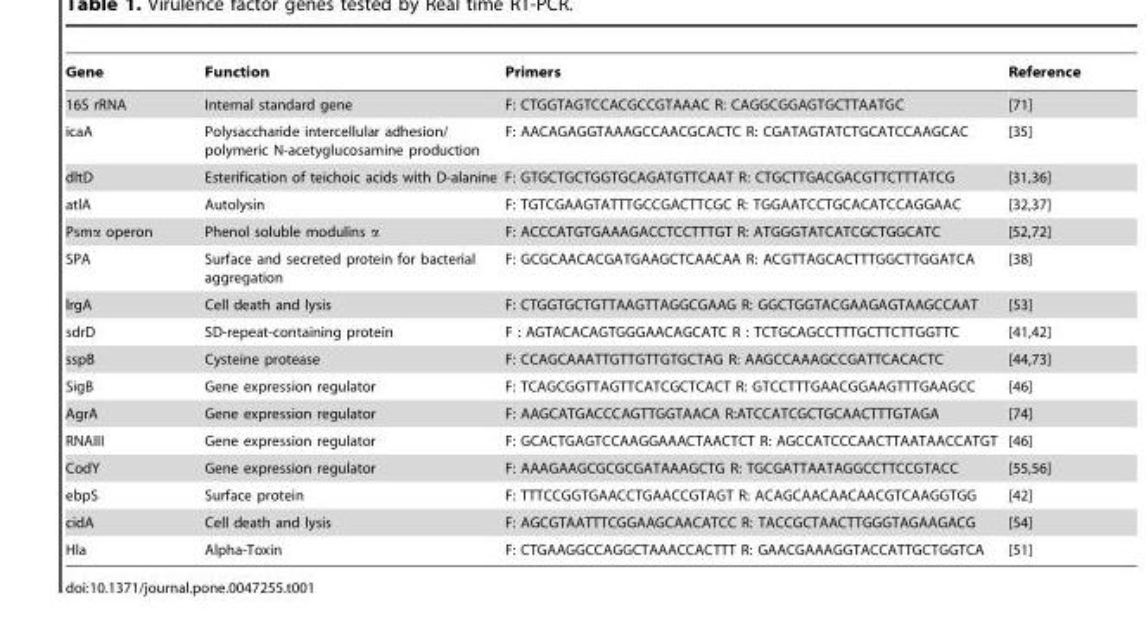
<table><thead><tr><td>Gene</td><td>Function</td><td>Primers</td><td>Reference</td></tr></thead><tbody><tr><td>16S rRNA</td><td>Internal standard gene</td><td>F: CTGGTAGTCCACGCCGTAAAC R: CAGGCGGAGTGCTTAATGC</td><td>[71]</td></tr><tr><td>icaA</td><td>Polysaccharide intercellular adhesion/ polymeric N-acetyglucosamine production</td><td>F: AACAGAGGTAAAGCCAACGCACTC R: CGATAGTATCTGCATCCAAGCAC</td><td>[35]</td></tr><tr><td>dltD</td><td>Esterification of teichoic acids with D-alanine</td><td>F: GTGCTGCTGGTGCAGATGTTCAAT R: CTGCTTGACGACGTTCTTTATCG</td><td>[31,36]</td></tr><tr><td>atlA</td><td>Autolysin</td><td>F: TGTCGAAGTATTTGCCGACTTCGC R: TGGAATCCTGCACATCCAGGAAC</td><td>[32,37]</td></tr><tr><td>Psmα operon</td><td>Phenol soluble modulins α</td><td>F: ACCCATGTGAAAGACCTCCTTTGT R: ATGGGTATCATCGCTGGCATC</td><td>[52,72]</td></tr><tr><td>SPA</td><td>Surface and secreted protein for bacterial aggregation</td><td>F: GCGCAACACGATGAAGCTCAACAA R: ACGTTAGCACTTTGGCTTGGATCA</td><td>[38]</td></tr><tr><td>lrgA</td><td>Cell death and lysis</td><td>F: CTGGTGCTGTTAAGTTAGGCGAAG R: GGCTGGTACGAAGAGTAAGCCAAT</td><td>[53]</td></tr><tr><td>sdrD</td><td>SD-repeat-containing protein</td><td>F : AGTACACAGTGGGAACAGCATC R : TCTGCAGCCTTTGCTTCTTGGTTC</td><td>[41,42]</td></tr><tr><td>sspB</td><td>Cysteine protease</td><td>F: CCAGCAAATTGTTGTTGTGCTAG R: AAGCCAAAGCCGATTCACACTC</td><td>[44,73]</td></tr><tr><td>SigB</td><td>Gene expression regulator</td><td>F: TCAGCGGTTAGTTCATCGCTCACT R: GTCCTTTGAACGGAAGTTTGAAGCC</td><td>[46]</td></tr><tr><td>AgrA</td><td>Gene expression regulator</td><td>F: AAGCATGACCCAGTTGGTAACA R:ATCCATCGCTGCAACTTTGTAGA</td><td>[74]</td></tr><tr><td>RNAIII</td><td>Gene expression regulator</td><td>F: GCACTGAGTCCAAGGAAACTAACTCT R: AGCCATCCCAACTTAATAACCATGT</td><td>[46]</td></tr><tr><td>CodY</td><td>Gene expression regulator</td><td>F: AAAGAAGCGCGCGATAAAGCTG R: TGCGATTAATAGGCCTTCCGTACC</td><td>[55,56]</td></tr><tr><td>ebpS</td><td>Surface protein</td><td>F: TTTCCGGTGAACCTGAACCGTAGT R: ACAGCAACAACAACGTCAAGGTGG</td><td>[42]</td></tr><tr><td>cidA</td><td>Cell death and lysis</td><td>F: AGCGTAATTTCGGAAGCAACATCC R: TACCGCTAACTTGGGTAGAAGACG</td><td>[54]</td></tr><tr><td>Hla</td><td>Alpha-Toxin</td><td>F: CTGAAGGCCAGGCTAAACCACTTT R: GAACGAAAGGTACCATTGCTGGTCA</td><td>[51]</td></tr></tbody></table>